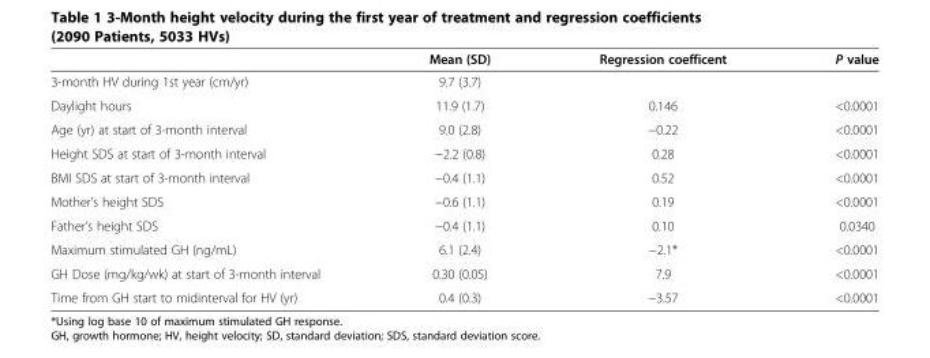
<table><thead><tr><td></td><td>Mean (SD)</td><td>Regression coefficent</td><td>P value</td></tr></thead><tbody><tr><td>3-month HV during 1st year (cm/yr)</td><td>9.7 (3.7)</td><td></td><td></td></tr><tr><td>Daylight hours</td><td>11.9 (1.7)</td><td>0.146</td><td>&lt;0.0001</td></tr><tr><td>Age (yr) at start of 3-month interval</td><td>9.0 (2.8)</td><td>−0.22</td><td>&lt;0.0001</td></tr><tr><td>Height SDS at start of 3-month interval</td><td>−2.2 (0.8)</td><td>0.28</td><td>&lt;0.0001</td></tr><tr><td>BMI SDS at start of 3-month interval</td><td>−0.4 (1.1)</td><td>0.52</td><td>&lt;0.0001</td></tr><tr><td>Mother’s height SDS</td><td>−0.6 (1.1)</td><td>0.19</td><td>&lt;0.0001</td></tr><tr><td>Father’s height SDS</td><td>−0.4 (1.1)</td><td>0.10</td><td>0.0340</td></tr><tr><td>Maximum stimulated GH (ng/mL)</td><td>6.1 (2.4)</td><td>−2.1*</td><td>&lt;0.0001</td></tr><tr><td>GH Dose (mg/kg/wk) at start of 3-month interval</td><td>0.30 (0.05)</td><td>7.9</td><td>&lt;0.0001</td></tr><tr><td>Time from GH start to midinterval for HV (yr)</td><td>0.4 (0.3)</td><td>−3.57</td><td>&lt;0.0001</td></tr></tbody></table>